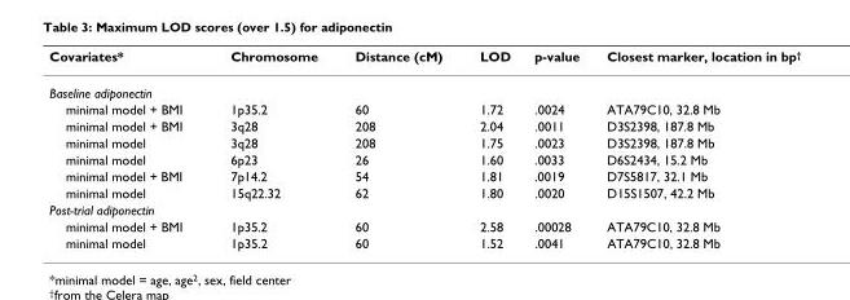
<table><thead><tr><td>Covariates*</td><td>Chromosome</td><td>Distance (cM)</td><td>LOD</td><td>p-value</td><td>Closest marker, location in bp<sup>†</sup></td></tr></thead><tbody><tr><td colspan="6">Baseline adiponectin</td></tr><tr><td>minimal model + BMI</td><td>1p35.2</td><td>60</td><td>1.72</td><td>.0024</td><td>ATA79C10, 32.8 Mb</td></tr><tr><td>minimal model + BMI</td><td>3q28</td><td>208</td><td>2.04</td><td>.0011</td><td>D3S2398, 187.8 Mb</td></tr><tr><td>minimal model</td><td>3q28</td><td>208</td><td>1.75</td><td>.0023</td><td>D3S2398, 187.8 Mb</td></tr><tr><td>minimal model</td><td>6p23</td><td>26</td><td>1.60</td><td>.0033</td><td>D6S2434, 15.2 Mb</td></tr><tr><td>minimal model + BMI</td><td>7p14.2</td><td>54</td><td>1.81</td><td>.0019</td><td>D7S5817, 32.1 Mb</td></tr><tr><td>minimal model</td><td>15q22.32</td><td>62</td><td>1.80</td><td>.0020</td><td>D15S1507, 42.2 Mb</td></tr><tr><td colspan="6">Post-trial adiponectin</td></tr><tr><td>minimal model + BMI</td><td>1p35.2</td><td>60</td><td>2.58</td><td>.00028</td><td>ATA79C10, 32.8 Mb</td></tr><tr><td>minimal model</td><td>1p35.2</td><td>60</td><td>1.52</td><td>.0041</td><td>ATA79C10, 32.8 Mb</td></tr></tbody></table>